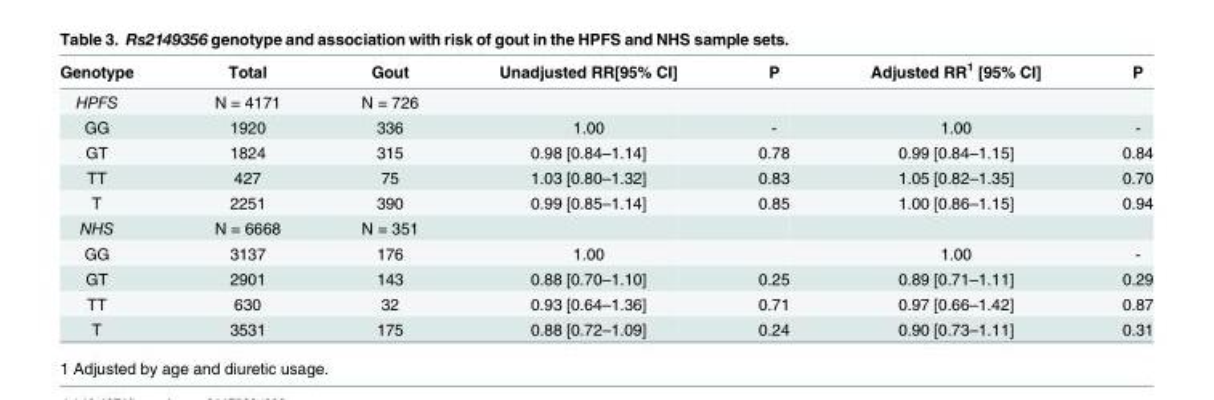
<table><thead><tr><td>Genotype</td><td>Total</td><td>Gout</td><td>Unadjusted RR[95% CI]</td><td>P</td><td>Adjusted RR<sup>1</sup> [95% CI]</td><td>P</td></tr></thead><tbody><tr><td>HPFS</td><td>N = 4171</td><td>N = 726</td><td></td><td></td><td></td><td></td></tr><tr><td>GG</td><td>1920</td><td>336</td><td>1.00</td><td>-</td><td>1.00</td><td>-</td></tr><tr><td>GT</td><td>1824</td><td>315</td><td>0.98 [0.84–1.14]</td><td>0.78</td><td>0.99 [0.84–1.15]</td><td>0.84</td></tr><tr><td>TT</td><td>427</td><td>75</td><td>1.03 [0.80–1.32]</td><td>0.83</td><td>1.05 [0.82–1.35]</td><td>0.70</td></tr><tr><td>T</td><td>2251</td><td>390</td><td>0.99 [0.85–1.14]</td><td>0.85</td><td>1.00 [0.86–1.15]</td><td>0.94</td></tr><tr><td>NHS</td><td>N = 6668</td><td>N = 351</td><td></td><td></td><td></td><td></td></tr><tr><td>GG</td><td>3137</td><td>176</td><td>1.00</td><td></td><td>1.00</td><td>-</td></tr><tr><td>GT</td><td>2901</td><td>143</td><td>0.88 [0.70–1.10]</td><td>0.25</td><td>0.89 [0.71–1.11]</td><td>0.29</td></tr><tr><td>TT</td><td>630</td><td>32</td><td>0.93 [0.64–1.36]</td><td>0.71</td><td>0.97 [0.66–1.42]</td><td>0.87</td></tr><tr><td>T</td><td>3531</td><td>175</td><td>0.88 [0.72–1.09]</td><td>0.24</td><td>0.90 [0.73–1.11]</td><td>0.31</td></tr></tbody></table>